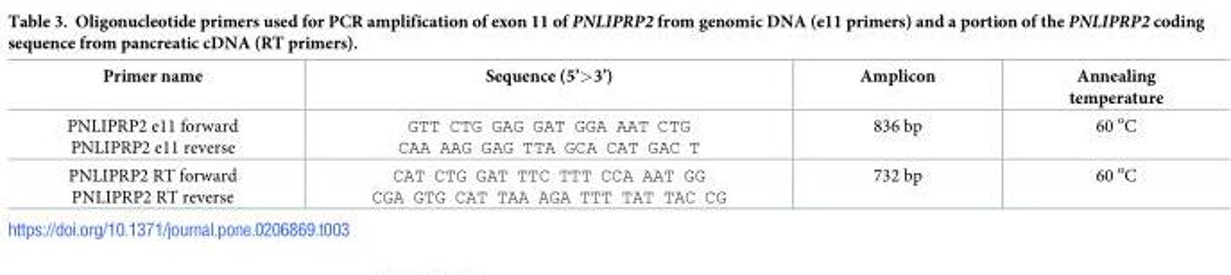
<table><thead><tr><td>Primer name</td><td>Sequence (5’&gt;3’)</td><td>Amplicon</td><td>Annealing temperature</td></tr></thead><tbody><tr><td>PNLIPRP2 e11 forward PNLIPRP2 e11 reverse</td><td>GTT CTG GAG GAT GGA AAT CTG CAA AAG GAG TTA GCA CAT GAC T</td><td>836 bp</td><td>60 <sup>o</sup>C</td></tr><tr><td>PNLIPRP2 RT forward PNLIPRP2 RT reverse</td><td>CAT CTG GAT TTC TTT CCA AAT GG CGA GTG CAT TAA AGA TTT TAT TAC CG</td><td>732 bp</td><td>60 <sup>o</sup>C</td></tr></tbody></table>